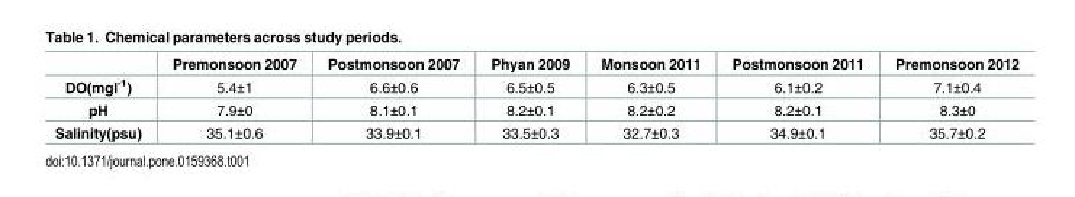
<table><thead><tr><td></td><td>Premonsoon 2007</td><td>Postmonsoon 2007</td><td>Phyan 2009</td><td>Monsoon 2011</td><td>Postmonsoon 2011</td><td>Premonsoon 2012</td></tr></thead><tbody><tr><td>DO(mgl<sup>-1</sup>)</td><td>5.4±1</td><td>6.6±0.6</td><td>6.5±0.5</td><td>6.3±0.5</td><td>6.1±0.2</td><td>7.1±0.4</td></tr><tr><td>pH</td><td>7.9±0</td><td>8.1±0.1</td><td>8.2±0.1</td><td>8.2±0.2</td><td>8.2±0.1</td><td>8.3±0</td></tr><tr><td>Salinity(psu)</td><td>35.1±0.6</td><td>33.9±0.1</td><td>33.5±0.3</td><td>32.7±0.3</td><td>34.9±0.1</td><td>35.7±0.2</td></tr></tbody></table>